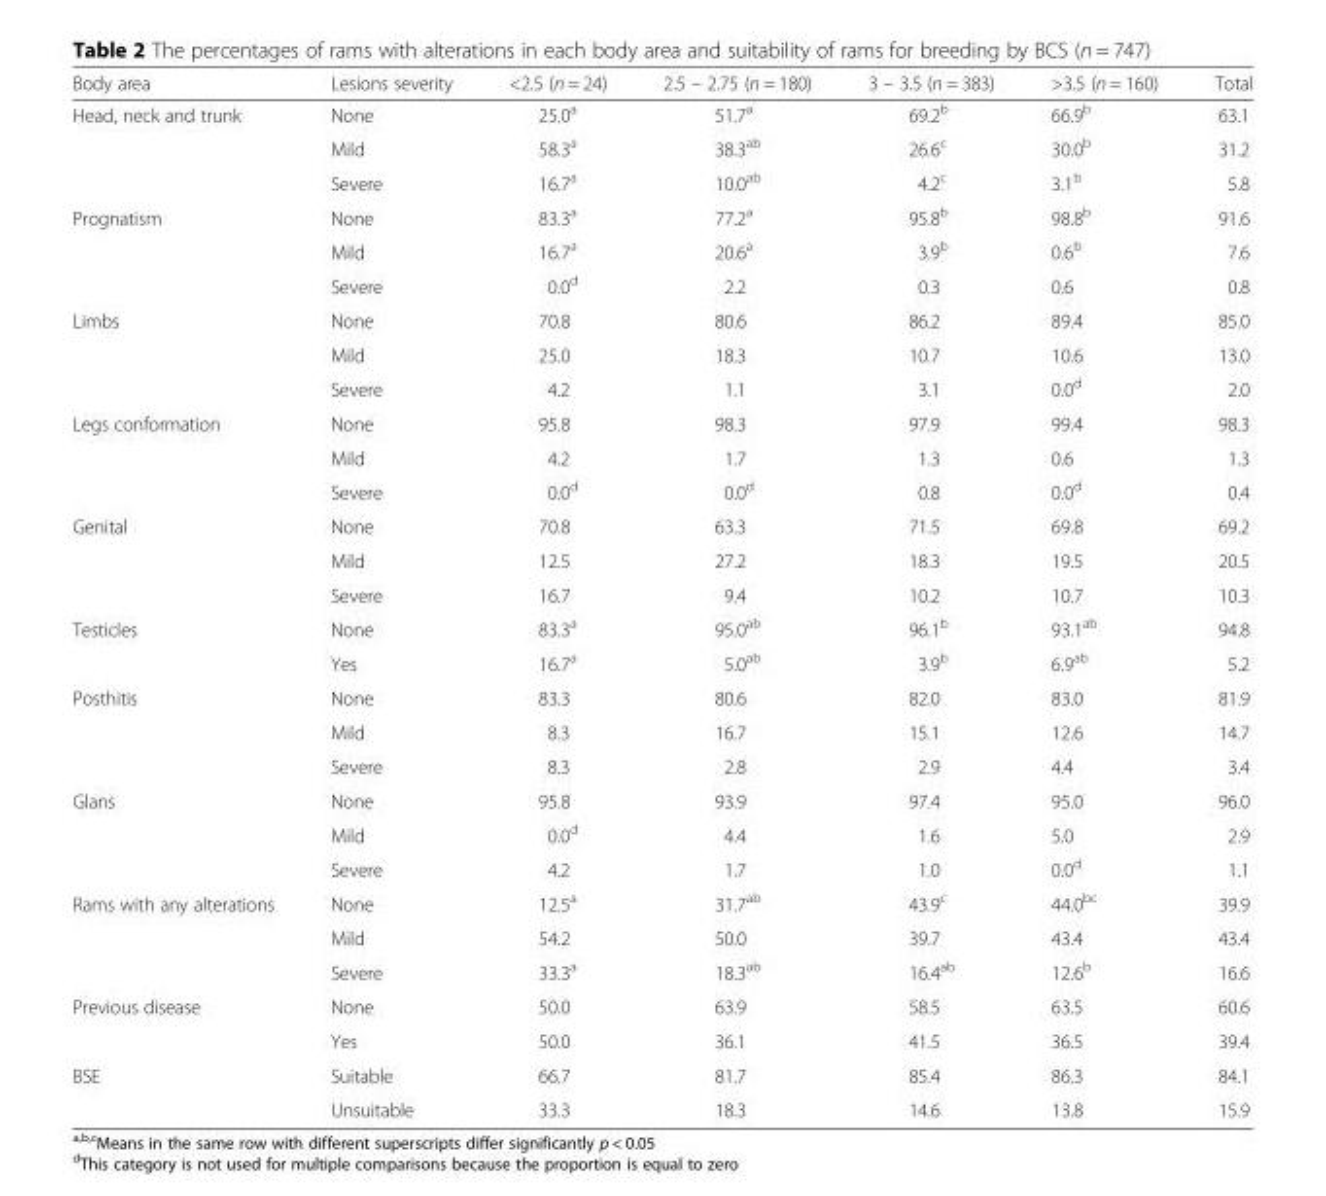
<table><thead><tr><td>Body area</td><td>Lesions severity</td><td>&lt;2.5 (n = 24)</td><td>2.5 – 2.75 (n = 180)</td><td>3 – 3.5 (n = 383)</td><td>&gt;3.5 (n = 160)</td><td>Total</td></tr></thead><tbody><tr><td rowspan="3">Head, neck and trunk</td><td>None</td><td>25.0<sup>a</sup></td><td>51.7<sup>a</sup></td><td>69.2<sup>b</sup></td><td>66.9<sup>b</sup></td><td>63.1</td></tr><tr><td>Mild</td><td>58.3<sup>a</sup></td><td>38.3<sup>ab</sup></td><td>26.6<sup>c</sup></td><td>30.0<sup>b</sup></td><td>31.2</td></tr><tr><td>Severe</td><td>16.7<sup>a</sup></td><td>10.0<sup>ab</sup></td><td>4.2<sup>c</sup></td><td>3.1<sup>b</sup></td><td>5.8</td></tr><tr><td rowspan="3">Prognatism</td><td>None</td><td>83.3<sup>a</sup></td><td>77.2<sup>a</sup></td><td>95.8<sup>b</sup></td><td>98.8<sup>b</sup></td><td>91.6</td></tr><tr><td>Mild</td><td>16.7<sup>a</sup></td><td>20.6<sup>a</sup></td><td>3.9<sup>b</sup></td><td>0.6<sup>b</sup></td><td>7.6</td></tr><tr><td>Severe</td><td>0.0<sup>d</sup></td><td>2.2</td><td>0.3</td><td>0.6</td><td>0.8</td></tr><tr><td rowspan="3">Limbs</td><td>None</td><td>70.8</td><td>80.6</td><td>86.2</td><td>89.4</td><td>85.0</td></tr><tr><td>Mild</td><td>25.0</td><td>18.3</td><td>10.7</td><td>10.6</td><td>13.0</td></tr><tr><td>Severe</td><td>4.2</td><td>1.1</td><td>3.1</td><td>0.0<sup>d</sup></td><td>2.0</td></tr><tr><td rowspan="3">Legs conformation</td><td>None</td><td>95.8</td><td>98.3</td><td>97.9</td><td>99.4</td><td>98.3</td></tr><tr><td>Mild</td><td>4.2</td><td>1.7</td><td>1.3</td><td>0.6</td><td>1.3</td></tr><tr><td>Severe</td><td>0.0<sup>d</sup></td><td>0.0<sup>d</sup></td><td>0.8</td><td>0.0<sup>d</sup></td><td>0.4</td></tr><tr><td rowspan="3">Genital</td><td>None</td><td>70.8</td><td>63.3</td><td>71.5</td><td>69.8</td><td>69.2</td></tr><tr><td>Mild</td><td>12.5</td><td>27.2</td><td>18.3</td><td>19.5</td><td>20.5</td></tr><tr><td>Severe</td><td>16.7</td><td>9.4</td><td>10.2</td><td>10.7</td><td>10.3</td></tr><tr><td rowspan="2">Testicles</td><td>None</td><td>83.3<sup>a</sup></td><td>95.0<sup>ab</sup></td><td>96.1<sup>b</sup></td><td>93.1<sup>ab</sup></td><td>94.8</td></tr><tr><td>Yes</td><td>16.7<sup>a</sup></td><td>5.0<sup>ab</sup></td><td>3.9<sup>b</sup></td><td>6.9<sup>ab</sup></td><td>5.2</td></tr><tr><td rowspan="3">Posthitis</td><td>None</td><td>83.3</td><td>80.6</td><td>82.0</td><td>83.0</td><td>81.9</td></tr><tr><td>Mild</td><td>8.3</td><td>16.7</td><td>15.1</td><td>12.6</td><td>14.7</td></tr><tr><td>Severe</td><td>8.3</td><td>2.8</td><td>2.9</td><td>4.4</td><td>3.4</td></tr><tr><td rowspan="3">Glans</td><td>None</td><td>95.8</td><td>93.9</td><td>97.4</td><td>95.0</td><td>96.0</td></tr><tr><td>Mild</td><td>0.0<sup>d</sup></td><td>4.4</td><td>1.6</td><td>5.0</td><td>2.9</td></tr><tr><td>Severe</td><td>4.2</td><td>1.7</td><td>1.0</td><td>0.0<sup>d</sup></td><td>1.1</td></tr><tr><td rowspan="3">Rams with any alterations</td><td>None</td><td>12.5<sup>a</sup></td><td>31.7<sup>ab</sup></td><td>43.9<sup>c</sup></td><td>44.0<sup>bc</sup></td><td>39.9</td></tr><tr><td>Mild</td><td>54.2</td><td>50.0</td><td>39.7</td><td>43.4</td><td>43.4</td></tr><tr><td>Severe</td><td>33.3<sup>a</sup></td><td>18.3<sup>ab</sup></td><td>16.4<sup>ab</sup></td><td>12.6<sup>b</sup></td><td>16.6</td></tr><tr><td rowspan="2">Previous disease</td><td>None</td><td>50.0</td><td>63.9</td><td>58.5</td><td>63.5</td><td>60.6</td></tr><tr><td>Yes</td><td>50.0</td><td>36.1</td><td>41.5</td><td>36.5</td><td>39.4</td></tr><tr><td rowspan="2">BSE</td><td>Suitable</td><td>66.7</td><td>81.7</td><td>85.4</td><td>86.3</td><td>84.1</td></tr><tr><td>Unsuitable</td><td>33.3</td><td>18.3</td><td>14.6</td><td>13.8</td><td>15.9</td></tr></tbody></table>